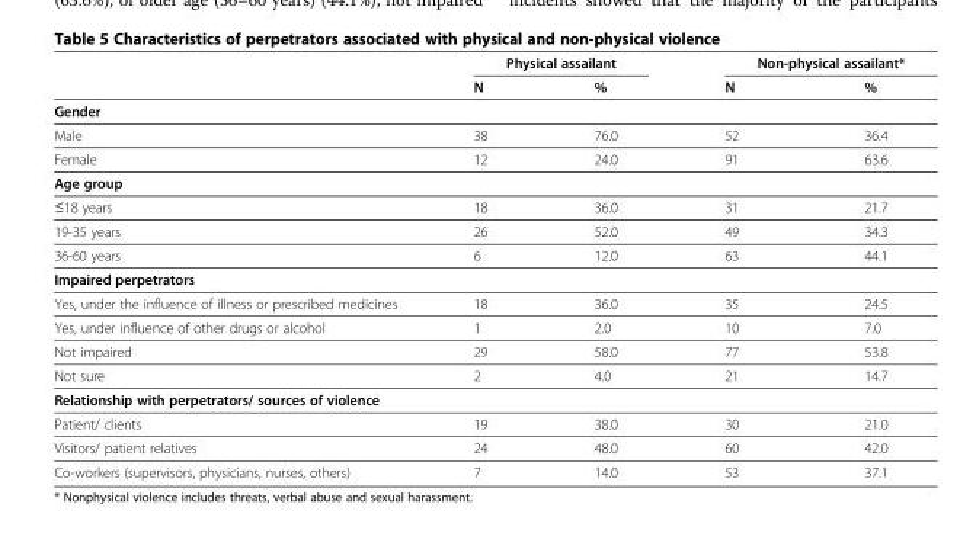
<table><thead><tr><td rowspan="2"></td><td colspan="2">Physical assailant</td><td colspan="2">Non-physical assailant*</td></tr><tr><td>N</td><td>%</td><td>N</td><td>%</td></tr></thead><tbody><tr><td colspan="5">Gender</td></tr><tr><td>Male</td><td>38</td><td>76.0</td><td>52</td><td>36.4</td></tr><tr><td>Female</td><td>12</td><td>24.0</td><td>91</td><td>63.6</td></tr><tr><td colspan="5">Age group</td></tr><tr><td>≤18 years</td><td>18</td><td>36.0</td><td>31</td><td>21.7</td></tr><tr><td>19-35 years</td><td>26</td><td>52.0</td><td>49</td><td>34.3</td></tr><tr><td>36-60 years</td><td>6</td><td>12.0</td><td>63</td><td>44.1</td></tr><tr><td colspan="5">Impaired perpetrators</td></tr><tr><td>Yes, under the influence of illness or prescribed medicines</td><td>18</td><td>36.0</td><td>35</td><td>24.5</td></tr><tr><td>Yes, under influence of other drugs or alcohol</td><td>1</td><td>2.0</td><td>10</td><td>7.0</td></tr><tr><td>Not impaired</td><td>29</td><td>58.0</td><td>77</td><td>53.8</td></tr><tr><td>Not sure</td><td>2</td><td>4.0</td><td>21</td><td>14.7</td></tr><tr><td colspan="5">Relationship with perpetrators/ sources of violence</td></tr><tr><td>Patient/ clients</td><td>19</td><td>38.0</td><td>30</td><td>21.0</td></tr><tr><td>Visitors/ patient relatives</td><td>24</td><td>48.0</td><td>60</td><td>42.0</td></tr><tr><td>Co-workers (supervisors, physicians, nurses, others)</td><td>7</td><td>14.0</td><td>53</td><td>37.1</td></tr></tbody></table>